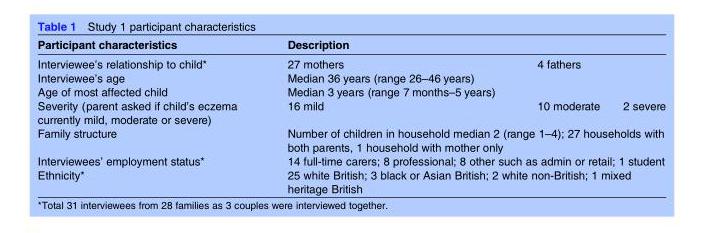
<table><thead><tr><td>Participant characteristics</td><td colspan="3">Description</td></tr></thead><tbody><tr><td>Interviewee’s relationship to child*</td><td>27 mothers</td><td colspan="2">4 fathers</td></tr><tr><td>Interviewee’s age</td><td colspan="3">Median 36 years (range 26–46 years)</td></tr><tr><td>Age of most affected child</td><td colspan="3">Median 3 years (range 7 months–5 years)</td></tr><tr><td>Severity (parent asked if child’s eczema currently mild, moderate or severe)</td><td>16 mild</td><td>10 moderate</td><td>2 severe</td></tr><tr><td>Family structure</td><td colspan="3">Number of children in household median 2 (range 1–4); 27 households with both parents, 1 household with mother only</td></tr><tr><td>Interviewees’ employment status*</td><td colspan="3">14 full-time carers; 8 professional; 8 other such as admin or retail; 1 student</td></tr><tr><td>Ethnicity*</td><td colspan="3">25 white British; 3 black or Asian British; 2 white non-British; 1 mixed heritage British</td></tr></tbody></table>